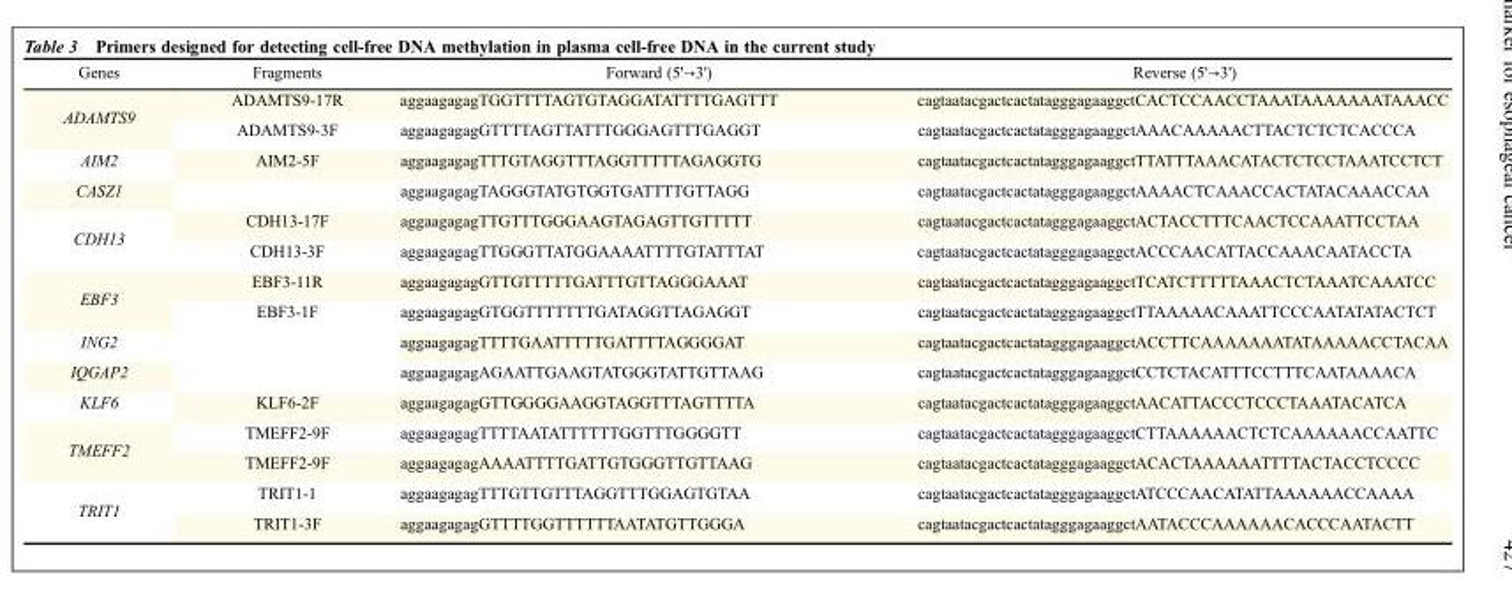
<table><thead><tr><td>Genes</td><td>Fragments</td><td>Forward (5&#x27;→3&#x27;)</td><td>Reverse (5&#x27;→3&#x27;)</td></tr></thead><tbody><tr><td rowspan="2">ADAMTS9</td><td>ADAMTS9-17R</td><td>aggaagagagTGGTTTTAGTGTAGGATATTTTGAGTTT</td><td>cagtaatacgactcactatagggagaaggctCACTCCAACCTAAATAAAAAAATAAACC</td></tr><tr><td>ADAMTS9-3F</td><td>aggaagagagGTTTTAGTTATTTGGGAGTTTGAGGT</td><td>cagtaatacgactcactatagggagaaggctAAACAAAAACTTACTCTCTCACCCA</td></tr><tr><td>AIM2</td><td>AIM2-5F</td><td>aggaagagagTTTGTAGGTTTAGGTTTTTAGAGGTG</td><td>cagtaatacgactcactatagggagaaggctTTATTTAAACATACTCTCCTAAATCCTCT</td></tr><tr><td>CASZ1</td><td></td><td>aggaagagagTAGGGTATGTGGTGATTTTGTTAGG</td><td>cagtaatacgactcactatagggagaaggctAAAACTCAAACCACTATACAAACCAA</td></tr><tr><td rowspan="2">CDH13</td><td>CDH13-17F</td><td>aggaagagagTTGTTTGGGAAGTAGAGTTGTTTTT</td><td>cagtaatacgactcactatagggagaaggctACTACCTTTCAACTCCAAATTCCTAA</td></tr><tr><td>CDH13-3F</td><td>aggaagagagTTGGGTTATGGAAAATTTTGTATTTAT</td><td>cagtaatacgactcactatagggagaaggctACCCAACATTACCAAACAATACCTA</td></tr><tr><td rowspan="2">EBF3</td><td>EBF3-11R</td><td>aggaagagagGTTGTTTTTGATTTGTTAGGGAAAT</td><td>cagtaatacgactcactatagggagaaggctTCATCTTTTTAAACTCTAAATCAAATCC</td></tr><tr><td>EBF3-1F</td><td>aggaagagagGTGGTTTTTTTGATAGGTTAGAGGT</td><td>cagtaatacgactcactatagggagaaggctTTAAAAACAAATTCCCAATATATACTCT</td></tr><tr><td>ING2</td><td></td><td>aggaagagagTTTTGAATTTTTGATTTTAGGGGAT</td><td>cagtaatacgactcactatagggagaaggctACCTTCAAAAAAATATAAAAACCTACAA</td></tr><tr><td>IQGAP2</td><td></td><td>aggaagagagAGAATTGAAGTATGGGTATTGTTAAG</td><td>cagtaatacgactcactatagggagaaggctCCTCTACATTTCCTTTCAATAAAACA</td></tr><tr><td>KLF6</td><td>KLF6-2F</td><td>aggaagagagGTTGGGGAAGGTAGGTTTAGTTTTA</td><td>cagtaatacgactcactatagggagaaggctAACATTACCCTCCCTAAATACATCA</td></tr><tr><td rowspan="2">TMEFF2</td><td>TMEFF2-9F</td><td>aggaagagagTTTTAATATTTTTTGGTTTGGGGTT</td><td>cagtaatacgactcactatagggagaaggctCTTAAAAAACTCTCAAAAAACCAATTC</td></tr><tr><td>TMEFF2-9F</td><td>aggaagagagAAAATTTTGATTGTGGGTTGTTAAG</td><td>cagtaatacgactcactatagggagaaggctACACTAAAAAATTTTACTACCTCCCC</td></tr><tr><td rowspan="2">TRIT1</td><td>TRIT1-1</td><td>aggaagagagTTTGTTGTTTAGGTTTGGAGTGTAA</td><td>cagtaatacgactcactatagggagaaggctATCCCAACATATTAAAAAACCAAAA</td></tr><tr><td>TRIT1-3F</td><td>aggaagagagGTTTTGGTTTTTTAATATGTTGGGA</td><td>cagtaatacgactcactatagggagaaggctAATACCCAAAAAACACCCAATACTT</td></tr></tbody></table>